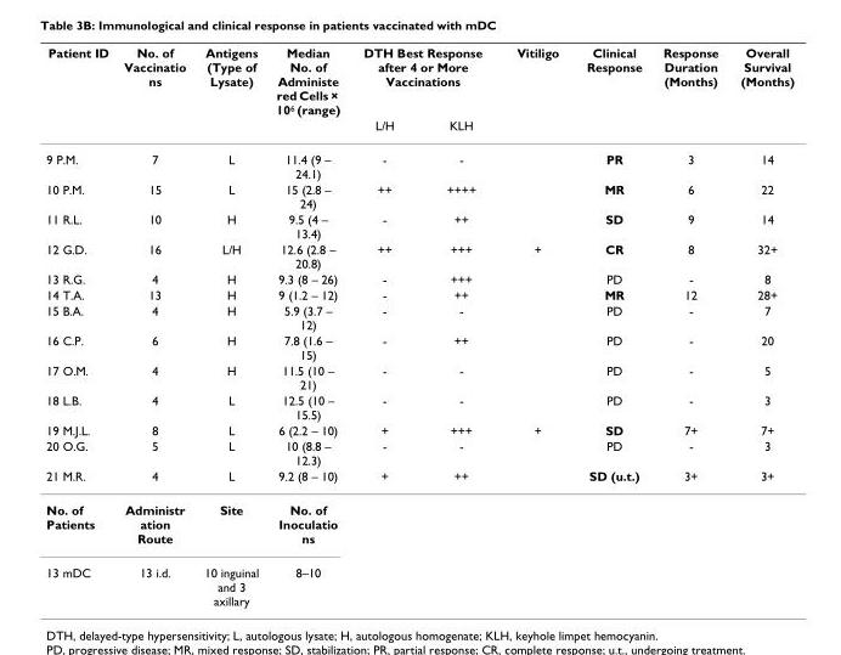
<table><thead><tr><td rowspan="2">Patient ID</td><td rowspan="2">No. of Vaccinatio ns</td><td rowspan="2">Antigens (Type of Lysate)</td><td rowspan="2">Median No. of Administe red Cells × 10<sup>6</sup> (range)</td><td colspan="2">DTH Best Response after 4 or More Vaccinations</td><td rowspan="2">Vitiligo</td><td rowspan="2">Clinical Response</td><td rowspan="2">Response Duration (Months)</td><td rowspan="2">Overall Survival (Months)</td></tr><tr><td>L/H</td><td>KLH</td></tr></thead><tbody><tr><td>9 P.M.</td><td>7</td><td>L</td><td>11.4 (9 – 24.1)</td><td>-</td><td>-</td><td></td><td>PR</td><td>3</td><td>14</td></tr><tr><td>10 P.M.</td><td>15</td><td>L</td><td>15 (2.8 – 24)</td><td>++</td><td>++++</td><td></td><td>MR</td><td>6</td><td>22</td></tr><tr><td>11 R.L.</td><td>10</td><td>H</td><td>9.5 (4 – 13.4)</td><td>-</td><td>++</td><td></td><td>SD</td><td>9</td><td>14</td></tr><tr><td>12 G.D.</td><td>16</td><td>L/H</td><td>12.6 (2.8 – 20.8)</td><td>++</td><td>+++</td><td>+</td><td>CR</td><td>8</td><td>32+</td></tr><tr><td>13 R.G.</td><td>4</td><td>H</td><td>9.3 (8 – 26)</td><td>-</td><td>+++</td><td></td><td>PD</td><td>-</td><td>8</td></tr><tr><td>14 T.A.</td><td>13</td><td>H</td><td>9 (1.2 – 12)</td><td>-</td><td>++</td><td></td><td>MR</td><td>12</td><td>28+</td></tr><tr><td>15 B.A.</td><td>4</td><td>H</td><td>5.9 (3.7 – 12)</td><td>-</td><td>-</td><td></td><td>PD</td><td>-</td><td>7</td></tr><tr><td>16 C.P.</td><td>6</td><td>H</td><td>7.8 (1.6 – 15)</td><td>-</td><td>++</td><td></td><td>PD</td><td>-</td><td>20</td></tr><tr><td>17 O.M.</td><td>4</td><td>H</td><td>11.5 (10 – 21)</td><td>-</td><td>-</td><td></td><td>PD</td><td>-</td><td>5</td></tr><tr><td>18 L.B.</td><td>4</td><td>L</td><td>12.5 (10 – 15.5)</td><td>-</td><td>-</td><td></td><td>PD</td><td>-</td><td>3</td></tr><tr><td>19 M.J.L.</td><td>8</td><td>L</td><td>6 (2.2 – 10)</td><td>+</td><td>+++</td><td>+</td><td>SD</td><td>7+</td><td>7+</td></tr><tr><td>20 O.G.</td><td>5</td><td>L</td><td>10 (8.8 – 12.3)</td><td>-</td><td>-</td><td></td><td>PD</td><td>-</td><td>3</td></tr><tr><td>21 M.R.</td><td>4</td><td>L</td><td>9.2 (8 – 10)</td><td>+</td><td>++</td><td></td><td>SD (u.t.)</td><td>3+</td><td>3+</td></tr><tr><td>No. of Patients</td><td>Administr ation Route</td><td>Site</td><td>No. of Inoculatio ns</td><td></td><td></td><td></td><td></td><td></td><td></td></tr><tr><td>13 mDC</td><td>13 i.d.</td><td>10 inguinal and 3 axillary</td><td>8–10</td><td></td><td></td><td></td><td></td><td></td><td></td></tr></tbody></table>